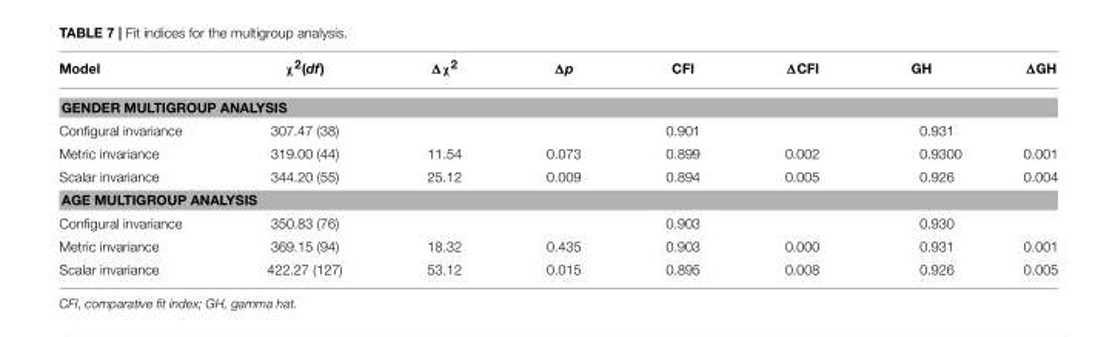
<table><thead><tr><td>Model</td><td>χ<sup>2</sup>(df)</td><td>Δχ<sup>2</sup></td><td>Δp</td><td>CFI</td><td>ΔCFI</td><td>GH</td><td>ΔGH</td></tr></thead><tbody><tr><td colspan="8">GENDER MULTIGROUP ANALYSIS</td></tr><tr><td>Configural invariance</td><td>307.47 (38)</td><td></td><td></td><td>0.901</td><td></td><td>0.931</td><td></td></tr><tr><td>Metric invariance</td><td>319.00 (44)</td><td>11.54</td><td>0.073</td><td>0.899</td><td>0.002</td><td>0.9300</td><td>0.001</td></tr><tr><td>Scalar invariance</td><td>344.20 (55)</td><td>25.12</td><td>0.009</td><td>0.894</td><td>0.005</td><td>0.926</td><td>0.004</td></tr><tr><td colspan="8">AGE MULTIGROUP ANALYSIS</td></tr><tr><td>Configural invariance</td><td>350.83 (76)</td><td></td><td></td><td>0.903</td><td></td><td>0.930</td><td></td></tr><tr><td>Metric invariance</td><td>369.15 (94)</td><td>18.32</td><td>0.435</td><td>0.903</td><td>0.000</td><td>0.931</td><td>0.001</td></tr><tr><td>Scalar invariance</td><td>422.27 (127)</td><td>53.12</td><td>0.015</td><td>0.895</td><td>0.008</td><td>0.926</td><td>0.005</td></tr></tbody></table>